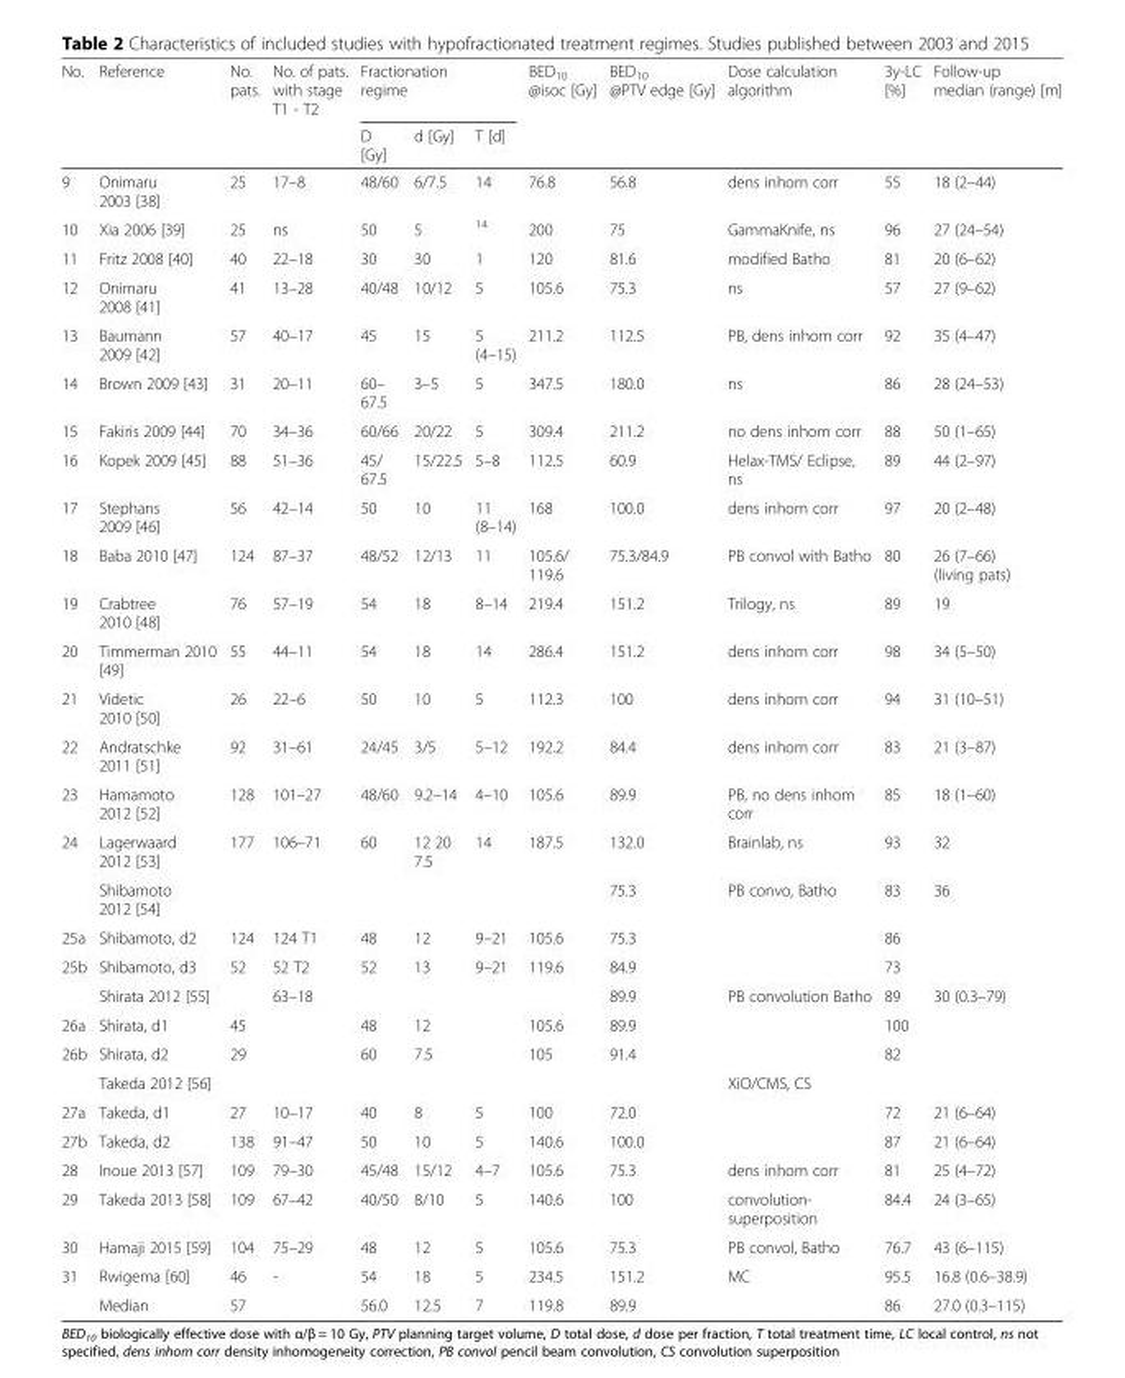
<table><thead><tr><td rowspan="2">No.</td><td rowspan="2">Reference</td><td rowspan="2">No. pats.</td><td rowspan="2">No. of pats. with stage T1 - T2</td><td colspan="3">Fractionation regime</td><td rowspan="2">BED<sub>10</sub> @isoc [Gy]</td><td rowspan="2">BED<sub>10</sub> @PTV edge [Gy]</td><td rowspan="2">Dose calculation algorithm</td><td rowspan="2">3y-LC [%]</td><td rowspan="2">Follow-up median (range) [m]</td></tr><tr><td>D [Gy]</td><td>d [Gy]</td><td>T [d]</td></tr></thead><tbody><tr><td>9</td><td>Onimaru 2003 [38]</td><td>25</td><td>17–8</td><td>48/60</td><td>6/7.5</td><td>14</td><td>76.8</td><td>56.8</td><td>dens inhom corr</td><td>55</td><td>18 (2–44)</td></tr><tr><td>10</td><td>Xia 2006 [39]</td><td>25</td><td>ns</td><td>50</td><td>5</td><td><sup>14</sup></td><td>200</td><td>75</td><td>GammaKnife, ns</td><td>96</td><td>27 (24–54)</td></tr><tr><td>11</td><td>Fritz 2008 [40]</td><td>40</td><td>22–18</td><td>30</td><td>30</td><td>1</td><td>120</td><td>81.6</td><td>modified Batho</td><td>81</td><td>20 (6–62)</td></tr><tr><td>12</td><td>Onimaru 2008 [41]</td><td>41</td><td>13–28</td><td>40/48</td><td>10/12</td><td>5</td><td>105.6</td><td>75.3</td><td>ns</td><td>57</td><td>27 (9–62)</td></tr><tr><td>13</td><td>Baumann 2009 [42]</td><td>57</td><td>40–17</td><td>45</td><td>15</td><td>5 (4–15)</td><td>211.2</td><td>112.5</td><td>PB, dens inhom corr</td><td>92</td><td>35 (4–47)</td></tr><tr><td>14</td><td>Brown 2009 [43]</td><td>31</td><td>20–11</td><td>60– 67.5</td><td>3–5</td><td>5</td><td>347.5</td><td>180.0</td><td>ns</td><td>86</td><td>28 (24–53)</td></tr><tr><td>15</td><td>Fakiris 2009 [44]</td><td>70</td><td>34–36</td><td>60/66</td><td>20/22</td><td>5</td><td>309.4</td><td>211.2</td><td>no dens inhom corr</td><td>88</td><td>50 (1–65)</td></tr><tr><td>16</td><td>Kopek 2009 [45]</td><td>88</td><td>51–36</td><td>45/ 67.5</td><td>15/22.5</td><td>5–8</td><td>112.5</td><td>60.9</td><td>Helax-TMS/ Eclipse, ns</td><td>89</td><td>44 (2–97)</td></tr><tr><td>17</td><td>Stephans 2009 [46]</td><td>56</td><td>42–14</td><td>50</td><td>10</td><td>11 (8–14)</td><td>168</td><td>100.0</td><td>dens inhom corr</td><td>97</td><td>20 (2–48)</td></tr><tr><td>18</td><td>Baba 2010 [47]</td><td>124</td><td>87–37</td><td>48/52</td><td>12/13</td><td>11</td><td>105.6/ 119.6</td><td>75.3/84.9</td><td>PB convol with Batho</td><td>80</td><td>26 (7–66) (living pats)</td></tr><tr><td>19</td><td>Crabtree 2010 [48]</td><td>76</td><td>57–19</td><td>54</td><td>18</td><td>8–14</td><td>219.4</td><td>151.2</td><td>Trilogy, ns</td><td>89</td><td>19</td></tr><tr><td>20</td><td>Timmerman 2010 [49]</td><td>55</td><td>44–11</td><td>54</td><td>18</td><td>14</td><td>286.4</td><td>151.2</td><td>dens inhom corr</td><td>98</td><td>34 (5–50)</td></tr><tr><td>21</td><td>Videtic 2010 [50]</td><td>26</td><td>22–6</td><td>50</td><td>10</td><td>5</td><td>112.3</td><td>100</td><td>dens inhom corr</td><td>94</td><td>31 (10–51)</td></tr><tr><td>22</td><td>Andratschke 2011 [51]</td><td>92</td><td>31–61</td><td>24/45</td><td>3/5</td><td>5–12</td><td>192.2</td><td>84.4</td><td>dens inhom corr</td><td>83</td><td>21 (3–87)</td></tr><tr><td>23</td><td>Hamamoto 2012 [52]</td><td>128</td><td>101–27</td><td>48/60</td><td>9.2–14</td><td>4–10</td><td>105.6</td><td>89.9</td><td>PB, no dens inhom corr</td><td>85</td><td>18 (1–60)</td></tr><tr><td rowspan="2">24</td><td>Lagerwaard 2012 [53]</td><td>177</td><td>106–71</td><td>60</td><td>12 20 7.5</td><td>14</td><td>187.5</td><td>132.0</td><td>Brainlab, ns</td><td>93</td><td>32</td></tr><tr><td>Shibamoto 2012 [54]</td><td></td><td></td><td></td><td></td><td></td><td></td><td>75.3</td><td>PB convo, Batho</td><td>83</td><td>36</td></tr><tr><td>25a</td><td>Shibamoto, d2</td><td>124</td><td>124 T1</td><td>48</td><td>12</td><td>9–21</td><td>105.6</td><td>75.3</td><td></td><td>86</td><td></td></tr><tr><td rowspan="2">25b</td><td>Shibamoto, d3</td><td>52</td><td>52 T2</td><td>52</td><td>13</td><td>9–21</td><td>119.6</td><td>84.9</td><td></td><td>73</td><td></td></tr><tr><td>Shirata 2012 [55]</td><td></td><td>63–18</td><td></td><td></td><td></td><td></td><td>89.9</td><td>PB convolution Batho</td><td>89</td><td>30 (0.3–79)</td></tr><tr><td>26a</td><td>Shirata, d1</td><td>45</td><td></td><td>48</td><td>12</td><td></td><td>105.6</td><td>89.9</td><td></td><td>100</td><td></td></tr><tr><td rowspan="2">26b</td><td>Shirata, d2</td><td>29</td><td></td><td>60</td><td>7.5</td><td></td><td>105</td><td>91.4</td><td></td><td>82</td><td></td></tr><tr><td>Takeda 2012 [56]</td><td></td><td></td><td></td><td></td><td></td><td></td><td></td><td>XiO/CMS, CS</td><td></td><td></td></tr><tr><td>27a</td><td>Takeda, d1</td><td>27</td><td>10–17</td><td>40</td><td>8</td><td>5</td><td>100</td><td>72.0</td><td></td><td>72</td><td>21 (6–64)</td></tr><tr><td>27b</td><td>Takeda, d2</td><td>138</td><td>91–47</td><td>50</td><td>10</td><td>5</td><td>140.6</td><td>100.0</td><td></td><td>87</td><td>21 (6–64)</td></tr><tr><td>28</td><td>Inoue 2013 [57]</td><td>109</td><td>79–30</td><td>45/48</td><td>15/12</td><td>4–7</td><td>105.6</td><td>75.3</td><td>dens inhom corr</td><td>81</td><td>25 (4–72)</td></tr><tr><td>29</td><td>Takeda 2013 [58]</td><td>109</td><td>67–42</td><td>40/50</td><td>8/10</td><td>5</td><td>140.6</td><td>100</td><td>convolution- superposition</td><td>84.4</td><td>24 (3–65)</td></tr><tr><td>30</td><td>Hamaji 2015 [59]</td><td>104</td><td>75–29</td><td>48</td><td>12</td><td>5</td><td>105.6</td><td>75.3</td><td>PB convol, Batho</td><td>76.7</td><td>43 (6–115)</td></tr><tr><td rowspan="2">31</td><td>Rwigema [60]</td><td>46</td><td>-</td><td>54</td><td>18</td><td>5</td><td>234.5</td><td>151.2</td><td>MC</td><td>95.5</td><td>16.8 (0.6–38.9)</td></tr><tr><td>Median</td><td>57</td><td></td><td>56.0</td><td>12.5</td><td>7</td><td>119.8</td><td>89.9</td><td></td><td>86</td><td>27.0 (0.3–115)</td></tr></tbody></table>